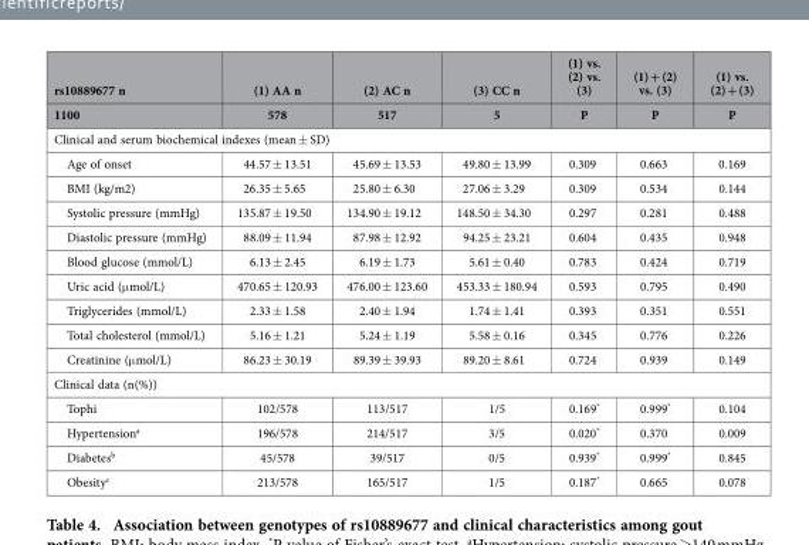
<table><thead><tr><td rowspan="2">rs10889677 n 1100</td><td rowspan="2">(1) AA n 578</td><td rowspan="2">(2) AC n 517</td><td rowspan="2">(3) CC n 5</td><td rowspan="2">(1) vs. (2) vs. (3) P</td><td rowspan="2">(1) + (2) vs. (3) P</td><td rowspan="2">(1) vs. (2) + (3) P</td></tr><tr></tr></thead><tbody><tr><td colspan="7">Clinical and serum biochemical indexes (mean ± SD)</td></tr><tr><td>Age of onset</td><td>44.57 ± 13.51</td><td>45.69 ± 13.53</td><td>49.80 ± 13.99</td><td>0.309</td><td>0.663</td><td>0.169</td></tr><tr><td>BMI (kg/m2)</td><td>26.35 ± 5.65</td><td>25.80 ± 6.30</td><td>27.06 ± 3.29</td><td>0.309</td><td>0.534</td><td>0.144</td></tr><tr><td>Systolic pressure (mmHg)</td><td>135.87 ± 19.50</td><td>134.90 ± 19.12</td><td>148.50 ± 34.30</td><td>0.297</td><td>0.281</td><td>0.488</td></tr><tr><td>Diastolic pressure (mmHg)</td><td>88.09 ± 11.94</td><td>87.98 ± 12.92</td><td>94.25 ± 23.21</td><td>0.604</td><td>0.435</td><td>0.948</td></tr><tr><td>Blood glucose (mmol/L)</td><td>6.13 ± 2.45</td><td>6.19 ± 1.73</td><td>5.61 ± 0.40</td><td>0.783</td><td>0.424</td><td>0.719</td></tr><tr><td>Uric acid (μ mol/L)</td><td>470.65 ± 120.93</td><td>476.00 ± 123.60</td><td>453.33 ± 180.94</td><td>0.593</td><td>0.795</td><td>0.490</td></tr><tr><td>Triglycerides (mmol/L)</td><td>2.33 ± 1.58</td><td>2.40 ± 1.94</td><td>1.74 ± 1.41</td><td>0.393</td><td>0.351</td><td>0.551</td></tr><tr><td>Total cholesterol (mmol/L)</td><td>5.16 ± 1.21</td><td>5.24 ± 1.19</td><td>5.58 ± 0.16</td><td>0.345</td><td>0.776</td><td>0.226</td></tr><tr><td>Creatinine (μ mol/L)</td><td>86.23 ± 30.19</td><td>89.39 ± 39.93</td><td>89.20 ± 8.61</td><td>0.724</td><td>0.939</td><td>0.149</td></tr><tr><td colspan="7">Clinical data (n(%))</td></tr><tr><td>Tophi</td><td>102/578</td><td>113/517</td><td>1/5</td><td>0.169*</td><td>0.999*</td><td>0.104</td></tr><tr><td>Hypertension<sup>a</sup></td><td>196/578</td><td>214/517</td><td>3/5</td><td>0.020*</td><td>0.370</td><td>0.009</td></tr><tr><td>Diabetes<sup>b</sup></td><td>45/578</td><td>39/517</td><td>0/5</td><td>0.939*</td><td>0.999*</td><td>0.845</td></tr><tr><td>Obesity<sup>c</sup></td><td>213/578</td><td>165/517</td><td>1/5</td><td>0.187*</td><td>0.665</td><td>0.078</td></tr></tbody></table>